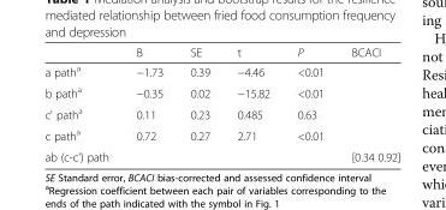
<table><thead><tr><td></td><td>B</td><td>SE</td><td>t</td><td>P</td><td>BCACI</td></tr></thead><tbody><tr><td>a path<sup>a</sup></td><td>−1.73</td><td>0.39</td><td>−4.46</td><td>&lt;0.01</td><td></td></tr><tr><td>b path<sup>a</sup></td><td>−0.35</td><td>0.02</td><td>−15.82</td><td>&lt;0.01</td><td></td></tr><tr><td>c&#x27; path<sup>a</sup></td><td>0.11</td><td>0.23</td><td>0.485</td><td>0.63</td><td></td></tr><tr><td>c path<sup>a</sup></td><td>0.72</td><td>0.27</td><td>2.71</td><td>&lt;0.01</td><td></td></tr><tr><td>ab (c-c&#x27;) path</td><td></td><td></td><td></td><td></td><td>[0.34 0.92]</td></tr></tbody></table>